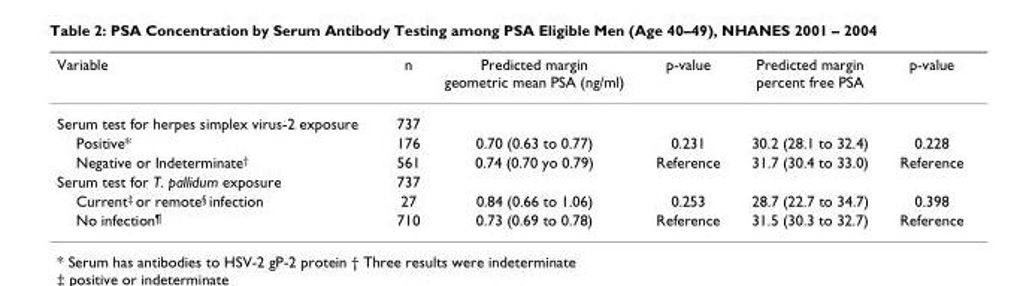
<table><thead><tr><td>Variable</td><td>n</td><td>Predicted margin geometric mean PSA (ng/ml)</td><td>p-value</td><td>Predicted margin percent free PSA</td><td>p-value</td></tr></thead><tbody><tr><td>Serum test for herpes simplex virus-2 exposure</td><td>737</td><td></td><td></td><td></td><td></td></tr><tr><td>Positive*</td><td>176</td><td>0.70 (0.63 to 0.77)</td><td>0.231</td><td>30.2 (28.1 to 32.4)</td><td>0.228</td></tr><tr><td>Negative or Indeterminate<sup>†</sup></td><td>561</td><td>0.74 (0.70 yo 0.79)</td><td>Reference</td><td>31.7 (30.4 to 33.0)</td><td>Reference</td></tr><tr><td>Serum test for T. pallidum exposure</td><td>737</td><td></td><td></td><td></td><td></td></tr><tr><td>Current<sup>‡</sup> or remote<sup>§</sup> infection</td><td>27</td><td>0.84 (0.66 to 1.06)</td><td>0.253</td><td>28.7 (22.7 to 34.7)</td><td>0.398</td></tr><tr><td>No infection<sup>¶</sup></td><td>710</td><td>0.73 (0.69 to 0.78)</td><td>Reference</td><td>31.5 (30.3 to 32.7)</td><td>Reference</td></tr></tbody></table>